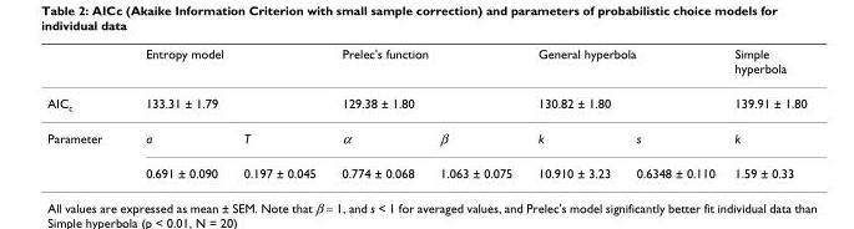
<table><thead><tr><td rowspan="3">AICc Parameter</td><td rowspan="2" colspan="2">Entropy model 133.31 ± 1.79</td><td rowspan="2" colspan="2">Prelec&#x27;s function 129.38 ± 1.80</td><td rowspan="2" colspan="2">General hyperbola 130.82 ± 1.80</td><td rowspan="3">Simple hyperbola 139.91 ± 1.80 k</td></tr><tr></tr><tr><td>a</td><td>T</td><td>α</td><td>β</td><td>k</td><td>s</td></tr></thead><tbody><tr><td></td><td>0.691 ± 0.090</td><td>0.197 ± 0.045</td><td>0.774 ± 0.068</td><td>1.063 ± 0.075</td><td>10.910 ± 3.23</td><td>0.6348 ± 0.110</td><td>1.59 ± 0.33</td></tr></tbody></table>